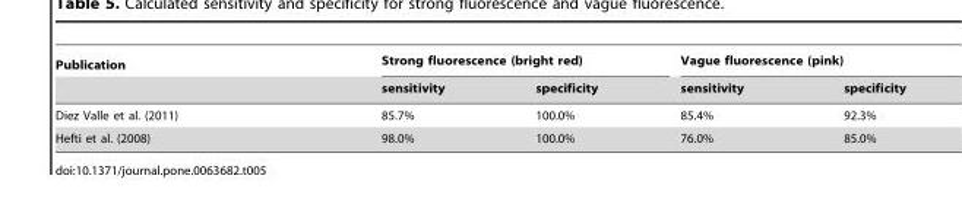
<table><thead><tr><td rowspan="2">Publication</td><td colspan="2">Strong fluorescence (bright red)</td><td colspan="2">Vague fluorescence (pink)</td></tr><tr><td>sensitivity</td><td>specificity</td><td>sensitivity</td><td>specificity</td></tr></thead><tbody><tr><td>Diez Valle et al. (2011)</td><td>85.7%</td><td>100.0%</td><td>85.4%</td><td>92.3%</td></tr><tr><td>Hefti et al. (2008)</td><td>98.0%</td><td>100.0%</td><td>76.0%</td><td>85.0%</td></tr></tbody></table>